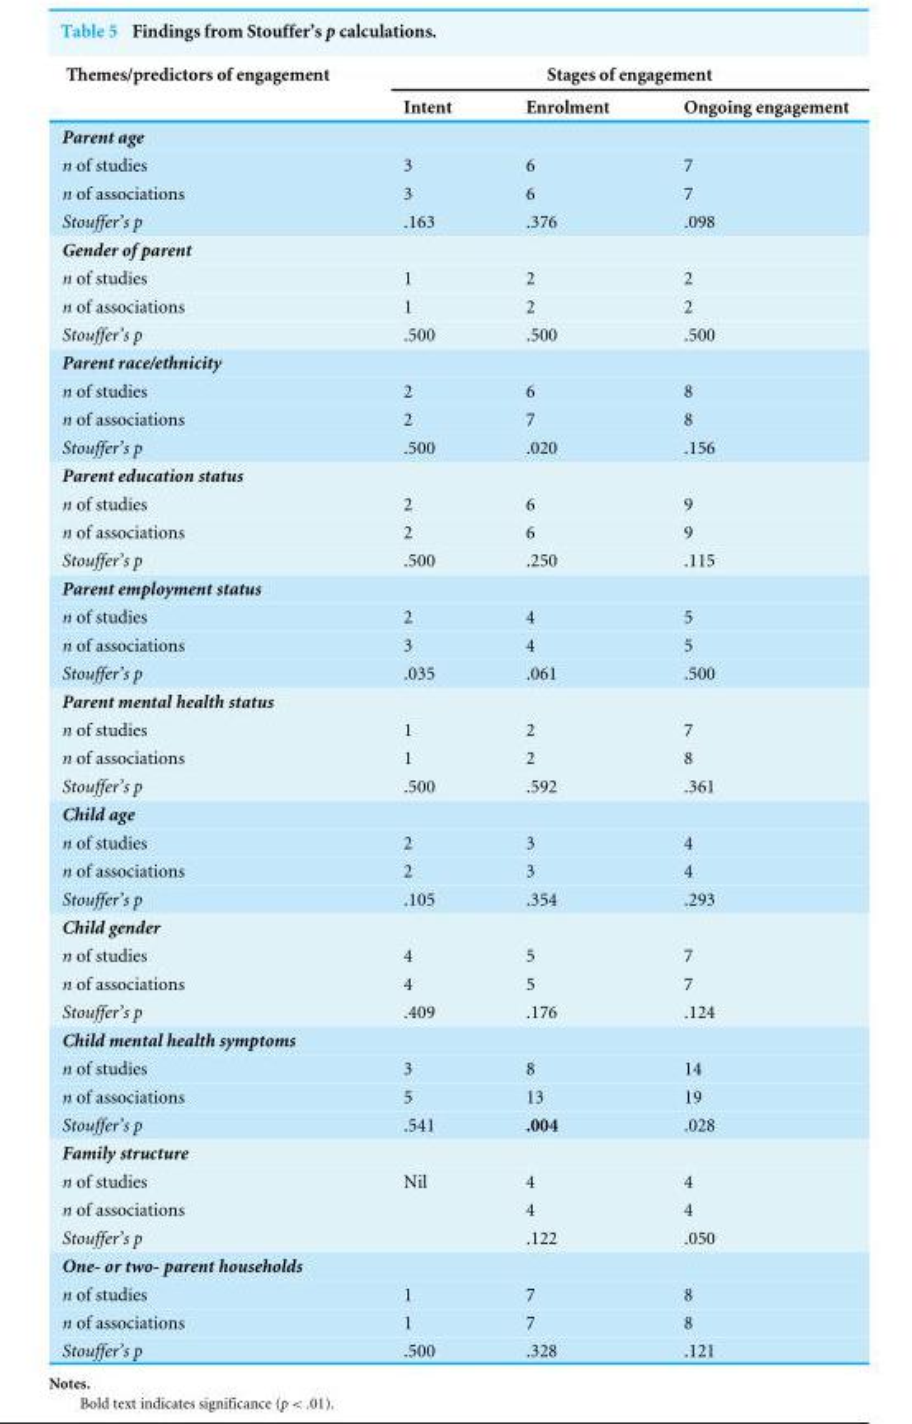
<table><thead><tr><td rowspan="2">Themes/predictors of engagement</td><td colspan="3">Stages of engagement</td></tr><tr><td>Intent</td><td>Enrolment</td><td>Ongoing engagement</td></tr></thead><tbody><tr><td colspan="4">Parent age</td></tr><tr><td>n of studies</td><td>3</td><td>6</td><td>7</td></tr><tr><td>n of associations</td><td>3</td><td>6</td><td>7</td></tr><tr><td>Stouffer’s p</td><td>.163</td><td>.376</td><td>.098</td></tr><tr><td colspan="4">Gender of parent</td></tr><tr><td>n of studies</td><td>1</td><td>2</td><td>2</td></tr><tr><td>n of associations</td><td>1</td><td>2</td><td>2</td></tr><tr><td>Stouffer’s p</td><td>.500</td><td>.500</td><td>.500</td></tr><tr><td colspan="4">Parent race/ethnicity</td></tr><tr><td>n of studies</td><td>2</td><td>6</td><td>8</td></tr><tr><td>n of associations</td><td>2</td><td>7</td><td>8</td></tr><tr><td>Stouffer’s p</td><td>.500</td><td>.020</td><td>.156</td></tr><tr><td colspan="4">Parent education status</td></tr><tr><td>n of studies</td><td>2</td><td>6</td><td>9</td></tr><tr><td>n of associations</td><td>2</td><td>6</td><td>9</td></tr><tr><td>Stouffer’s p</td><td>.500</td><td>.250</td><td>.115</td></tr><tr><td colspan="4">Parent employment status</td></tr><tr><td>n of studies</td><td>2</td><td>4</td><td>5</td></tr><tr><td>n of associations</td><td>3</td><td>4</td><td>5</td></tr><tr><td>Stouffer’s p</td><td>.035</td><td>.061</td><td>.500</td></tr><tr><td colspan="4">Parent mental health status</td></tr><tr><td>n of studies</td><td>1</td><td>2</td><td>7</td></tr><tr><td>n of associations</td><td>1</td><td>2</td><td>8</td></tr><tr><td>Stouffer’s p</td><td>.500</td><td>.592</td><td>.361</td></tr><tr><td colspan="4">Child age</td></tr><tr><td>n of studies</td><td>2</td><td>3</td><td>4</td></tr><tr><td>n of associations</td><td>2</td><td>3</td><td>4</td></tr><tr><td>Stouffer’s p</td><td>.105</td><td>.354</td><td>.293</td></tr><tr><td colspan="4">Child gender</td></tr><tr><td>n of studies</td><td>4</td><td>5</td><td>7</td></tr><tr><td>n of associations</td><td>4</td><td>5</td><td>7</td></tr><tr><td>Stouffer’s p</td><td>.409</td><td>.176</td><td>.124</td></tr><tr><td colspan="4">Child mental health symptoms</td></tr><tr><td>n of studies</td><td>3</td><td>8</td><td>14</td></tr><tr><td>n of associations</td><td>5</td><td>13</td><td>19</td></tr><tr><td>Stouffer’s p</td><td>.541</td><td>.004</td><td>.028</td></tr><tr><td colspan="4">Family structure</td></tr><tr><td>n of studies</td><td>Nil</td><td>4</td><td>4</td></tr><tr><td>n of associations</td><td></td><td>4</td><td>4</td></tr><tr><td>Stouffer’s p</td><td></td><td>.122</td><td>.050</td></tr><tr><td colspan="4">One- or two- parent households</td></tr><tr><td>n of studies</td><td>1</td><td>7</td><td>8</td></tr><tr><td>n of associations</td><td>1</td><td>7</td><td>8</td></tr><tr><td>Stouffer’s p</td><td>.500</td><td>.328</td><td>.121</td></tr></tbody></table>